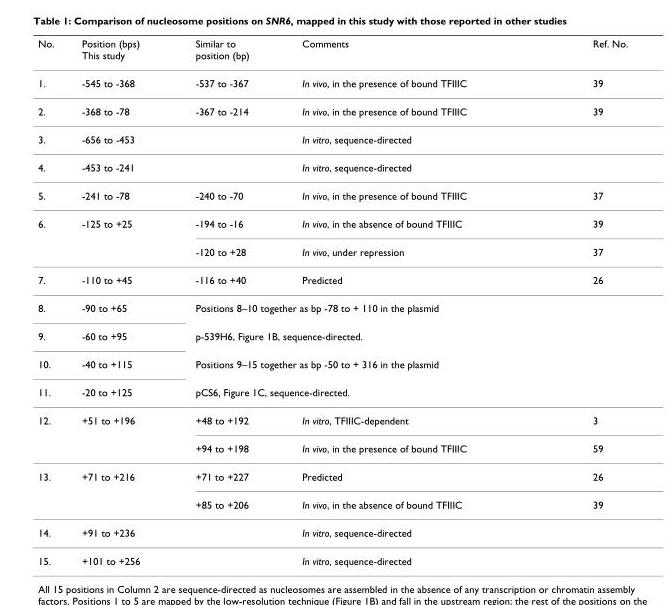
<table><thead><tr><td>No.</td><td>Position (bps) This study</td><td>Similar to position (bp)</td><td>Comments</td><td>Ref. No.</td></tr></thead><tbody><tr><td>1.</td><td>-545 to -368</td><td>-537 to -367</td><td>In vivo, in the presence of bound TFIIIC</td><td>39</td></tr><tr><td>2.</td><td>-368 to -78</td><td>-367 to -214</td><td>In vivo, in the presence of bound TFIIIC</td><td>39</td></tr><tr><td>3.</td><td>-656 to -453</td><td></td><td>In vitro, sequence-directed</td><td></td></tr><tr><td>4.</td><td>-453 to -241</td><td></td><td>In vitro, sequence-directed</td><td></td></tr><tr><td>5.</td><td>-241 to -78</td><td>-240 to -70</td><td>In vivo, in the presence of bound TFIIIC</td><td>37</td></tr><tr><td rowspan="2">6.</td><td>-125 to +25</td><td>-194 to -16</td><td>In vivo, in the absence of bound TFIIIC</td><td>39</td></tr><tr><td></td><td>-120 to +28</td><td>In vivo, under repression</td><td>37</td></tr><tr><td>7.</td><td>-110 to +45</td><td>-116 to +40</td><td>Predicted</td><td>26</td></tr><tr><td>8.</td><td>-90 to +65</td><td colspan="3">Positions 8–10 together as bp -78 to + 110 in the plasmid</td></tr><tr><td>9.</td><td>-60 to +95</td><td colspan="3">p-539H6, Figure 1B, sequence-directed.</td></tr><tr><td>10.</td><td>-40 to +115</td><td colspan="3">Positions 9–15 together as bp -50 to + 316 in the plasmid</td></tr><tr><td>11.</td><td>-20 to +125</td><td colspan="3">pCS6, Figure 1C, sequence-directed.</td></tr><tr><td rowspan="2">12.</td><td>+51 to +196</td><td>+48 to +192</td><td>In vitro, TFIIIC-dependent</td><td>3</td></tr><tr><td></td><td>+94 to +198</td><td>In vivo, in the presence of bound TFIIIC</td><td>59</td></tr><tr><td rowspan="2">13.</td><td>+71 to +216</td><td>+71 to +227</td><td>Predicted</td><td>26</td></tr><tr><td></td><td>+85 to +206</td><td>In vivo, in the absence of bound TFIIIC</td><td>39</td></tr><tr><td>14.</td><td>+91 to +236</td><td></td><td>In vitro, sequence-directed</td><td></td></tr><tr><td>15.</td><td>+101 to +256</td><td></td><td>In vitro, sequence-directed</td><td></td></tr></tbody></table>